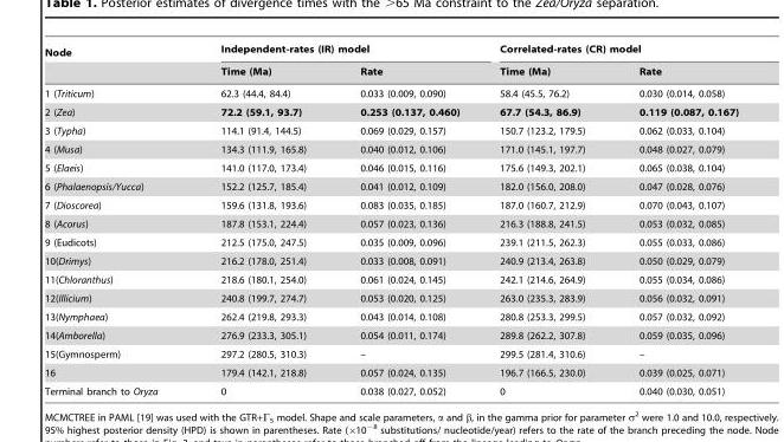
<table><thead><tr><td rowspan="2">Node</td><td colspan="2">Independent-rates (IR) model</td><td colspan="2">Correlated-rates (CR) model</td></tr><tr><td>Time (Ma)</td><td>Rate</td><td>Time (Ma)</td><td>Rate</td></tr></thead><tbody><tr><td>1 (Triticum)</td><td>62.3 (44.4, 84.4)</td><td>0.033 (0.009, 0.090)</td><td>58.4 (45.5, 76.2)</td><td>0.030 (0.014, 0.058)</td></tr><tr><td>2 (Zea)</td><td>72.2 (59.1, 93.7)</td><td>0.253 (0.137, 0.460)</td><td>67.7 (54.3, 86.9)</td><td>0.119 (0.087, 0.167)</td></tr><tr><td>3 (Typha)</td><td>114.1 (91.4, 144.5)</td><td>0.069 (0.029, 0.157)</td><td>150.7 (123.2, 179.5)</td><td>0.062 (0.033, 0.104)</td></tr><tr><td>4 (Musa)</td><td>134.3 (111.9, 165.8)</td><td>0.040 (0.012, 0.106)</td><td>171.0 (145.1, 197.7)</td><td>0.048 (0.027, 0.079)</td></tr><tr><td>5 (Elaeis)</td><td>141.0 (117.0, 173.4)</td><td>0.046 (0.015, 0.116)</td><td>175.6 (149.3, 202.1)</td><td>0.065 (0.038, 0.104)</td></tr><tr><td>6 (Phalaenopsis/Yucca)</td><td>152.2 (125.7, 185.4)</td><td>0.041 (0.012, 0.109)</td><td>182.0 (156.0, 208.0)</td><td>0.047 (0.028, 0.076)</td></tr><tr><td>7 (Dioscorea)</td><td>159.6 (131.8, 193.6)</td><td>0.083 (0.035, 0.185)</td><td>187.0 (160.7, 212.9)</td><td>0.070 (0.043, 0.107)</td></tr><tr><td>8 (Acorus)</td><td>187.8 (153.1, 224.4)</td><td>0.057 (0.023, 0.136)</td><td>216.3 (188.8, 241.5)</td><td>0.053 (0.032, 0.085)</td></tr><tr><td>9 (Eudicots)</td><td>212.5 (175.0, 247.5)</td><td>0.035 (0.009, 0.096)</td><td>239.1 (211.5, 262.3)</td><td>0.055 (0.033, 0.086)</td></tr><tr><td>10(Drimys)</td><td>216.2 (178.0, 251.4)</td><td>0.033 (0.008, 0.091)</td><td>240.9 (213.4, 263.8)</td><td>0.050 (0.029, 0.079)</td></tr><tr><td>11(Chloranthus)</td><td>218.6 (180.1, 254.0)</td><td>0.061 (0.024, 0.145)</td><td>242.1 (214.6, 264.9)</td><td>0.055 (0.034, 0.086)</td></tr><tr><td>12(Illicium)</td><td>240.8 (199.7, 274.7)</td><td>0.053 (0.020, 0.125)</td><td>263.0 (235.3, 283.9)</td><td>0.056 (0.032, 0.091)</td></tr><tr><td>13(Nymphaea)</td><td>262.4 (219.8, 293.3)</td><td>0.043 (0.014, 0.108)</td><td>280.8 (253.3, 299.5)</td><td>0.057 (0.032, 0.092)</td></tr><tr><td>14(Amborella)</td><td>276.9 (233.3, 305.1)</td><td>0.054 (0.011, 0.174)</td><td>289.8 (262.2, 307.8)</td><td>0.059 (0.035, 0.096)</td></tr><tr><td>15(Gymnosperm)</td><td>297.2 (280.5, 310.3)</td><td>–</td><td>299.5 (281.4, 310.6)</td><td>–</td></tr><tr><td>16</td><td>179.4 (142.1, 218.8)</td><td>0.057 (0.024, 0.135)</td><td>196.7 (166.5, 230.0)</td><td>0.039 (0.025, 0.071)</td></tr><tr><td>Terminal branch to Oryza</td><td>0</td><td>0.038 (0.027, 0.052)</td><td>0</td><td>0.040 (0.030, 0.051)</td></tr></tbody></table>